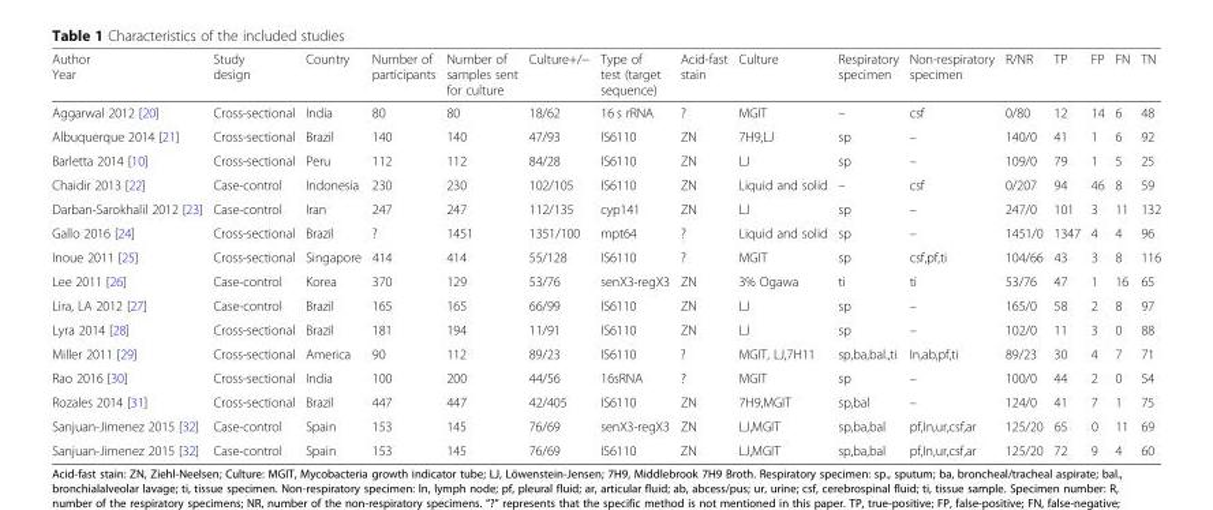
<table><thead><tr><td>Author Year</td><td>Study design</td><td>Country</td><td>Number of participants</td><td>Number of samples sent for culture</td><td>Culture+/−</td><td>Type of test (target sequence)</td><td>Acid-fast stain</td><td>Culture</td><td>Respiratory specimen</td><td>Non-respiratory specimen</td><td>R/NR</td><td>TP</td><td>FP</td><td>FN</td><td>TN</td></tr></thead><tbody><tr><td>Aggarwal 2012 [20]</td><td>Cross-sectional</td><td>India</td><td>80</td><td>80</td><td>18/62</td><td>16 s rRNA</td><td>?</td><td>MGIT</td><td>–</td><td>csf</td><td>0/80</td><td>12</td><td>14</td><td>6</td><td>48</td></tr><tr><td>Albuquerque 2014 [21]</td><td>Cross-sectional</td><td>Brazil</td><td>140</td><td>140</td><td>47/93</td><td>IS6110</td><td>ZN</td><td>7H9,LJ</td><td>sp</td><td>–</td><td>140/0</td><td>41</td><td>1</td><td>6</td><td>92</td></tr><tr><td>Barletta 2014 [10]</td><td>Cross-sectional</td><td>Peru</td><td>112</td><td>112</td><td>84/28</td><td>IS6110</td><td>ZN</td><td>LJ</td><td>sp</td><td>–</td><td>109/0</td><td>79</td><td>1</td><td>5</td><td>25</td></tr><tr><td>Chaidir 2013 [22]</td><td>Case-control</td><td>Indonesia</td><td>230</td><td>230</td><td>102/105</td><td>IS6110</td><td>ZN</td><td>Liquid and solid</td><td>–</td><td>csf</td><td>0/207</td><td>94</td><td>46</td><td>8</td><td>59</td></tr><tr><td>Darban-Sarokhalil 2012 [23]</td><td>Case-control</td><td>Iran</td><td>247</td><td>247</td><td>112/135</td><td>cyp141</td><td>ZN</td><td>LJ</td><td>sp</td><td>–</td><td>247/0</td><td>101</td><td>3</td><td>11</td><td>132</td></tr><tr><td>Gallo 2016 [24]</td><td>Cross-sectional</td><td>Brazil</td><td>?</td><td>1451</td><td>1351/100</td><td>mpt64</td><td>?</td><td>Liquid and solid</td><td>sp</td><td>–</td><td>1451/0</td><td>1347</td><td>4</td><td>4</td><td>96</td></tr><tr><td>Inoue 2011 [25]</td><td>Cross-sectional</td><td>Singapore</td><td>414</td><td>414</td><td>55/128</td><td>IS6110</td><td>?</td><td>MGIT</td><td>sp</td><td>csf,pf,ti</td><td>104/66</td><td>43</td><td>3</td><td>8</td><td>116</td></tr><tr><td>Lee 2011 [26]</td><td>Case-control</td><td>Korea</td><td>370</td><td>129</td><td>53/76</td><td>senX3-regX3</td><td>ZN</td><td>3% Ogawa</td><td>ti</td><td>ti</td><td>53/76</td><td>47</td><td>1</td><td>16</td><td>65</td></tr><tr><td>Lira, LA 2012 [27]</td><td>Case-control</td><td>Brazil</td><td>165</td><td>165</td><td>66/99</td><td>IS6110</td><td>ZN</td><td>LJ</td><td>sp</td><td>–</td><td>165/0</td><td>58</td><td>2</td><td>8</td><td>97</td></tr><tr><td>Lyra 2014 [28]</td><td>Cross-sectional</td><td>Brazil</td><td>181</td><td>194</td><td>11/91</td><td>IS6110</td><td>ZN</td><td>LJ</td><td>sp</td><td>–</td><td>102/0</td><td>11</td><td>3</td><td>0</td><td>88</td></tr><tr><td>Miller 2011 [29]</td><td>Cross-sectional</td><td>America</td><td>90</td><td>112</td><td>89/23</td><td>IS6110</td><td>?</td><td>MGIT, LJ,7H11</td><td>sp,ba,bal.,ti</td><td>In,ab,pf,ti</td><td>89/23</td><td>30</td><td>4</td><td>7</td><td>71</td></tr><tr><td>Rao 2016 [30]</td><td>Cross-sectional</td><td>India</td><td>100</td><td>200</td><td>44/56</td><td>16sRNA</td><td>?</td><td>MGIT</td><td>sp</td><td>–</td><td>100/0</td><td>44</td><td>2</td><td>0</td><td>54</td></tr><tr><td>Rozales 2014 [31]</td><td>Cross-sectional</td><td>Brazil</td><td>447</td><td>447</td><td>42/405</td><td>IS6110</td><td>ZN</td><td>7H9,MGIT</td><td>sp,bal</td><td>–</td><td>124/0</td><td>41</td><td>7</td><td>1</td><td>75</td></tr><tr><td>Sanjuan-Jimenez 2015 [32]</td><td>Case-control</td><td>Spain</td><td>153</td><td>145</td><td>76/69</td><td>senX3-regX3</td><td>ZN</td><td>LJ,MGIT</td><td>sp,ba,bal</td><td>pf,In,ur,csf,ar</td><td>125/20</td><td>65</td><td>0</td><td>11</td><td>69</td></tr><tr><td>Sanjuan-Jimenez 2015 [32]</td><td>Case-control</td><td>Spain</td><td>153</td><td>145</td><td>76/69</td><td>IS6110</td><td>ZN</td><td>LJ,MGIT</td><td>sp,ba,bal</td><td>pf,In,ur,csf,ar</td><td>125/20</td><td>72</td><td>9</td><td>4</td><td>60</td></tr></tbody></table>